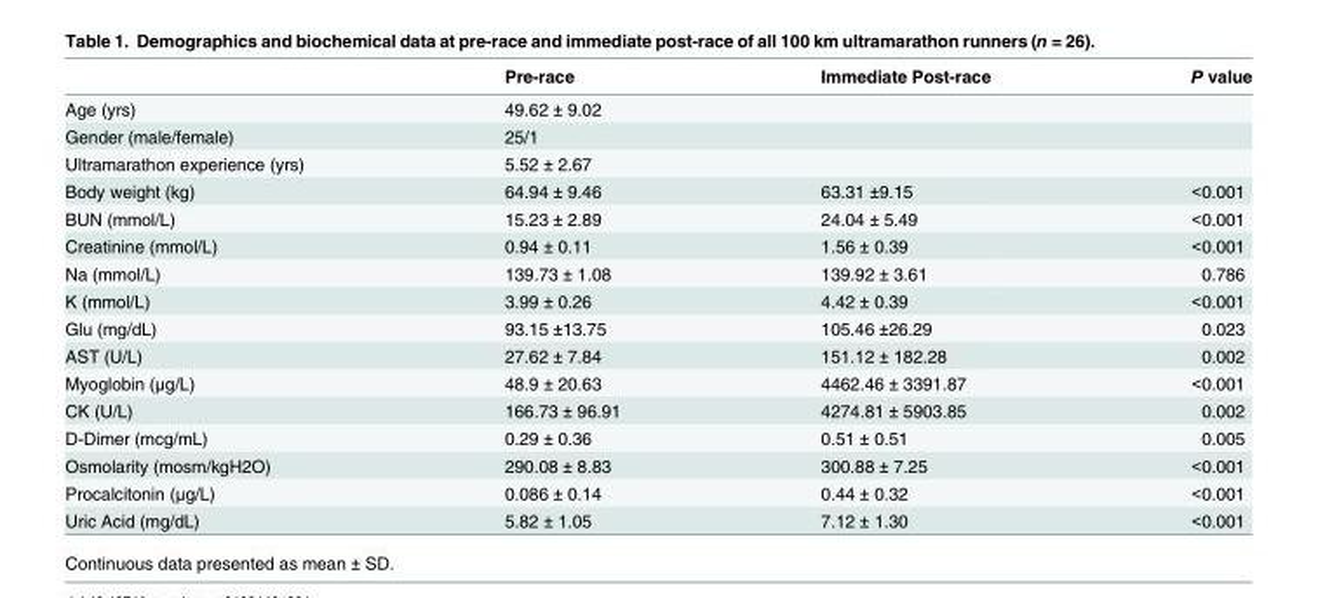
<table><thead><tr><td></td><td>Pre-race</td><td>Immediate Post-race</td><td>P value</td></tr></thead><tbody><tr><td>Age (yrs)</td><td>49.62 ± 9.02</td><td></td><td></td></tr><tr><td>Gender (male/female)</td><td>25/1</td><td></td><td></td></tr><tr><td>Ultramarathon experience (yrs)</td><td>5.52 ± 2.67</td><td></td><td></td></tr><tr><td>Body weight (kg)</td><td>64.94 ± 9.46</td><td>63.31 ±9.15</td><td>&lt;0.001</td></tr><tr><td>BUN (mmol/L)</td><td>15.23 ± 2.89</td><td>24.04 ± 5.49</td><td>&lt;0.001</td></tr><tr><td>Creatinine (mmol/L)</td><td>0.94 ± 0.11</td><td>1.56 ± 0.39</td><td>&lt;0.001</td></tr><tr><td>Na (mmol/L)</td><td>139.73 ± 1.08</td><td>139.92 ± 3.61</td><td>0.786</td></tr><tr><td>K (mmol/L)</td><td>3.99 ± 0.26</td><td>4.42 ± 0.39</td><td>&lt;0.001</td></tr><tr><td>Glu (mg/dL)</td><td>93.15 ±13.75</td><td>105.46 ±26.29</td><td>0.023</td></tr><tr><td>AST (U/L)</td><td>27.62 ± 7.84</td><td>151.12 ± 182.28</td><td>0.002</td></tr><tr><td>Myoglobin (μg/L)</td><td>48.9 ± 20.63</td><td>4462.46 ± 3391.87</td><td>&lt;0.001</td></tr><tr><td>CK (U/L)</td><td>166.73 ± 96.91</td><td>4274.81 ± 5903.85</td><td>0.002</td></tr><tr><td>D-Dimer (mcg/mL)</td><td>0.29 ± 0.36</td><td>0.51 ± 0.51</td><td>0.005</td></tr><tr><td>Osmolarity (mosm/kgH2O)</td><td>290.08 ± 8.83</td><td>300.88 ± 7.25</td><td>&lt;0.001</td></tr><tr><td>Procalcitonin (μg/L)</td><td>0.086 ± 0.14</td><td>0.44 ± 0.32</td><td>&lt;0.001</td></tr><tr><td>Uric Acid (mg/dL)</td><td>5.82 ± 1.05</td><td>7.12 ± 1.30</td><td>&lt;0.001</td></tr></tbody></table>